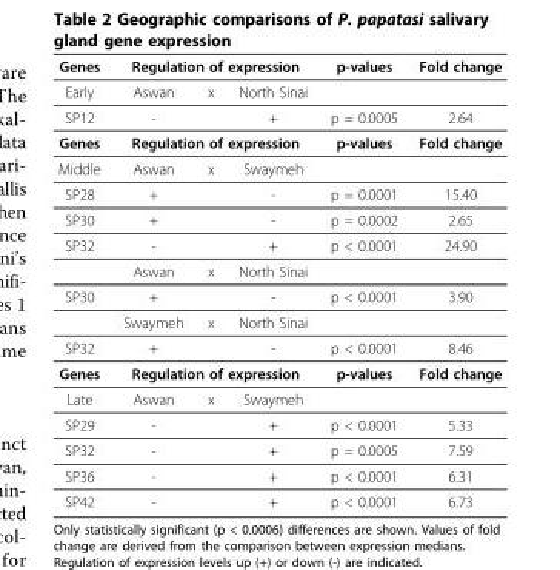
<table><thead><tr><td rowspan="2">Genes Early</td><td colspan="3">Regulation of expression</td><td rowspan="2">p-values</td><td rowspan="2">Fold change</td></tr><tr><td>Aswan</td><td>x</td><td>North Sinai</td></tr></thead><tbody><tr><td>SP12</td><td>-</td><td></td><td>+</td><td>p = 0.0005</td><td>2.64</td></tr><tr><td>Genes</td><td colspan="3">Regulation of expression</td><td>p-values</td><td>Fold change</td></tr><tr><td>Middle</td><td>Aswan</td><td>x</td><td>Swaymeh</td><td></td><td></td></tr><tr><td>SP28</td><td>+</td><td></td><td>-</td><td>p = 0.0001</td><td>15.40</td></tr><tr><td>SP30</td><td>+</td><td></td><td>-</td><td>p = 0.0002</td><td>2.65</td></tr><tr><td rowspan="2">SP32</td><td>-</td><td></td><td>+</td><td>p &lt; 0.0001</td><td>24.90</td></tr><tr><td>Aswan</td><td>x</td><td>North Sinai</td><td></td><td></td></tr><tr><td rowspan="2">SP30</td><td>+</td><td></td><td>-</td><td>p &lt; 0.0001</td><td>3.90</td></tr><tr><td>Swaymeh</td><td>x</td><td>North Sinai</td><td></td><td></td></tr><tr><td>SP32</td><td>+</td><td></td><td>-</td><td>p &lt; 0.0001</td><td>8.46</td></tr><tr><td>Genes</td><td colspan="3">Regulation of expression</td><td>p-values</td><td>Fold change</td></tr><tr><td>Late</td><td>Aswan</td><td>x</td><td>Swaymeh</td><td></td><td></td></tr><tr><td>SP29</td><td>-</td><td></td><td>+</td><td>p &lt; 0.0001</td><td>5.33</td></tr><tr><td>SP32</td><td>-</td><td></td><td>+</td><td>p = 0.0005</td><td>7.59</td></tr><tr><td>SP36</td><td>-</td><td></td><td>+</td><td>p &lt; 0.0001</td><td>6.31</td></tr><tr><td>SP42</td><td>-</td><td></td><td>+</td><td>p &lt; 0.0001</td><td>6.73</td></tr></tbody></table>